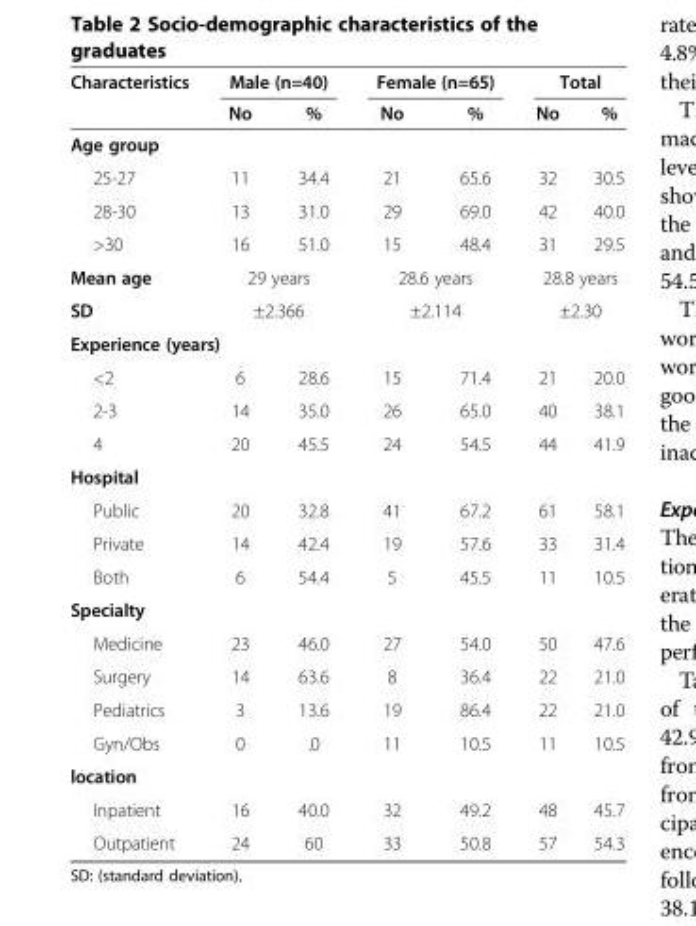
<table><thead><tr><td rowspan="2">Characteristics</td><td colspan="2">Male (n=40)</td><td colspan="2">Female (n=65)</td><td colspan="2">Total</td></tr><tr><td>No</td><td>%</td><td>No</td><td>%</td><td>No</td><td>%</td></tr></thead><tbody><tr><td colspan="7">Age group</td></tr><tr><td>25-27</td><td>11</td><td>34.4</td><td>21</td><td>65.6</td><td>32</td><td>30.5</td></tr><tr><td>28-30</td><td>13</td><td>31.0</td><td>29</td><td>69.0</td><td>42</td><td>40.0</td></tr><tr><td>&gt;30</td><td>16</td><td>51.0</td><td>15</td><td>48.4</td><td>31</td><td>29.5</td></tr><tr><td>Mean age</td><td colspan="2">29 years</td><td colspan="2">28.6 years</td><td colspan="2">28.8 years</td></tr><tr><td>SD</td><td colspan="2">±2.366</td><td colspan="2">±2.114</td><td colspan="2">±2.30</td></tr><tr><td colspan="7">Experience (years)</td></tr><tr><td>&lt;2</td><td>6</td><td>28.6</td><td>15</td><td>71.4</td><td>21</td><td>20.0</td></tr><tr><td>2-3</td><td>14</td><td>35.0</td><td>26</td><td>65.0</td><td>40</td><td>38.1</td></tr><tr><td>4</td><td>20</td><td>45.5</td><td>24</td><td>54.5</td><td>44</td><td>41.9</td></tr><tr><td colspan="7">Hospital</td></tr><tr><td>Public</td><td>20</td><td>32.8</td><td>41</td><td>67.2</td><td>61</td><td>58.1</td></tr><tr><td>Private</td><td>14</td><td>42.4</td><td>19</td><td>57.6</td><td>33</td><td>31.4</td></tr><tr><td>Both</td><td>6</td><td>54.4</td><td>5</td><td>45.5</td><td>11</td><td>10.5</td></tr><tr><td colspan="7">Specialty</td></tr><tr><td>Medicine</td><td>23</td><td>46.0</td><td>27</td><td>54.0</td><td>50</td><td>47.6</td></tr><tr><td>Surgery</td><td>14</td><td>63.6</td><td>8</td><td>36.4</td><td>22</td><td>21.0</td></tr><tr><td>Pediatrics</td><td>3</td><td>13.6</td><td>19</td><td>86.4</td><td>22</td><td>21.0</td></tr><tr><td>Gyn/Obs</td><td>0</td><td>.0</td><td>11</td><td>10.5</td><td>11</td><td>10.5</td></tr><tr><td colspan="7">location</td></tr><tr><td>Inpatient</td><td>16</td><td>40.0</td><td>32</td><td>49.2</td><td>48</td><td>45.7</td></tr><tr><td>Outpatient</td><td>24</td><td>60</td><td>33</td><td>50.8</td><td>57</td><td>54.3</td></tr></tbody></table>